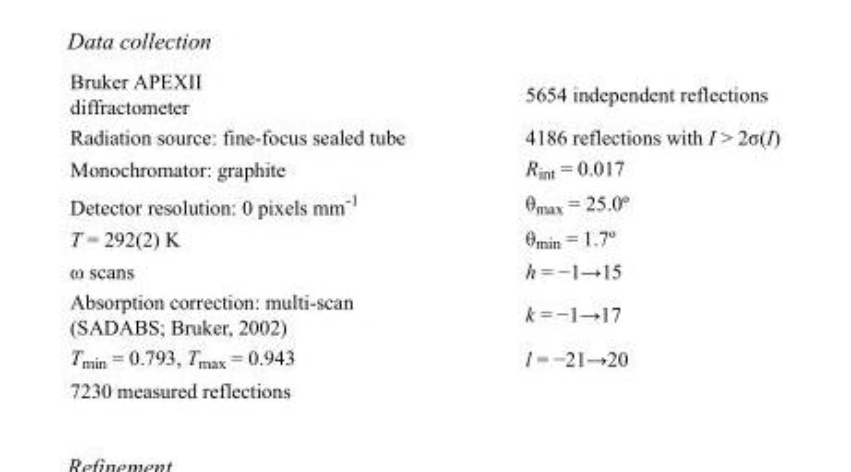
<table><tbody><tr><td>Bruker APEXII diffractometer</td><td>5654 independent reflections</td></tr><tr><td>Radiation source: fine-focus sealed tube</td><td>4186 reflections with I &gt; 2σ(I)</td></tr><tr><td>Monochromator: graphite</td><td>R<sub>int</sub> = 0.017</td></tr><tr><td>Detector resolution: 0 pixels mm<sup>-1</sup></td><td>θ<sub>max</sub> = 25.0º</td></tr><tr><td>T = 292(2) K</td><td>θ<sub>min</sub> = 1.7º</td></tr><tr><td>ω scans</td><td>h = −1→15</td></tr><tr><td>Absorption correction: multi-scan (SADABS; Bruker, 2002)</td><td>k = −1→17</td></tr><tr><td>T<sub>min</sub> = 0.793, T<sub>max</sub> = 0.943</td><td>l = −21→20</td></tr><tr><td>7230 measured reflections</td><td></td></tr></tbody></table>